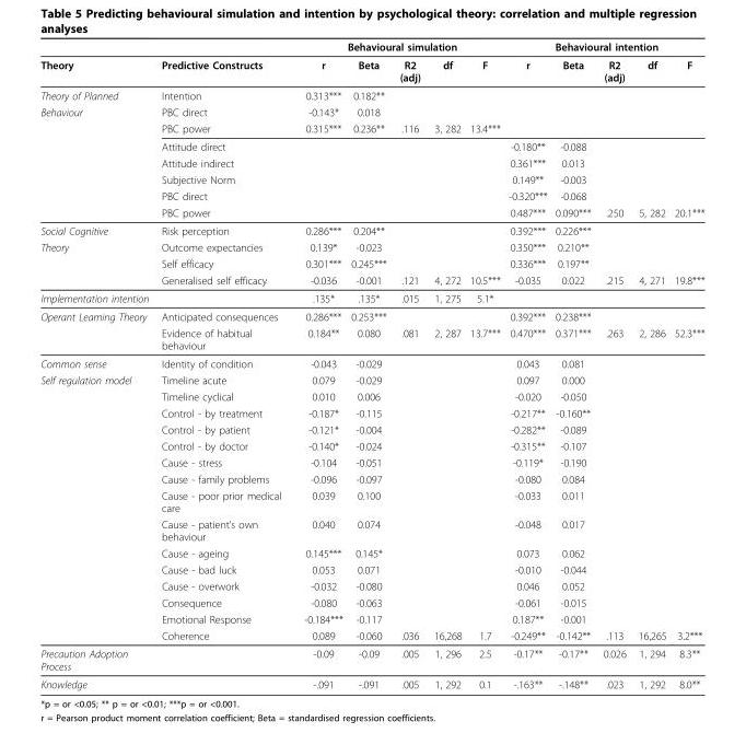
<table><thead><tr><td rowspan="2">Theory</td><td rowspan="2">Predictive Constructs</td><td colspan="5">Behavioural simulation</td><td colspan="5">Behavioural intention</td></tr><tr><td>r</td><td>Beta</td><td>R2 (adj)</td><td>df</td><td>F</td><td>r</td><td>Beta</td><td>R2 (adj)</td><td>df</td><td>F</td></tr></thead><tbody><tr><td>Theory of Planned</td><td>Intention</td><td>0.313***</td><td>0.182**</td><td></td><td></td><td></td><td></td><td></td><td></td><td></td><td></td></tr><tr><td rowspan="7">Behaviour</td><td>PBC direct</td><td>-0.143*</td><td>0.018</td><td></td><td></td><td></td><td></td><td></td><td></td><td></td><td></td></tr><tr><td>PBC power</td><td>0.315***</td><td>0.236**</td><td>.116</td><td>3, 282</td><td>13.4***</td><td></td><td></td><td></td><td></td><td></td></tr><tr><td>Attitude direct</td><td></td><td></td><td></td><td></td><td></td><td>-0.180**</td><td>-0.088</td><td></td><td></td><td></td></tr><tr><td>Attitude indirect</td><td></td><td></td><td></td><td></td><td></td><td>0.361***</td><td>0.013</td><td></td><td></td><td></td></tr><tr><td>Subjective Norm</td><td></td><td></td><td></td><td></td><td></td><td>0.149**</td><td>-0.003</td><td></td><td></td><td></td></tr><tr><td>PBC direct</td><td></td><td></td><td></td><td></td><td></td><td>-0.320***</td><td>-0.068</td><td></td><td></td><td></td></tr><tr><td>PBC power</td><td></td><td></td><td></td><td></td><td></td><td>0.487***</td><td>0.090***</td><td>.250</td><td>5, 282</td><td>20.1***</td></tr><tr><td>Social Cognitive</td><td>Risk perception</td><td>0.286***</td><td>0.204**</td><td></td><td></td><td></td><td>0.392***</td><td>0.226***</td><td></td><td></td><td></td></tr><tr><td rowspan="3">Theory</td><td>Outcome expectancies</td><td>0.139*</td><td>-0.023</td><td></td><td></td><td></td><td>0.350***</td><td>0.210**</td><td></td><td></td><td></td></tr><tr><td>Self efficacy</td><td>0.301***</td><td>0.245***</td><td></td><td></td><td></td><td>0.336***</td><td>0.197**</td><td></td><td></td><td></td></tr><tr><td>Generalised self efficacy</td><td>-0.036</td><td>-0.001</td><td>.121</td><td>4, 272</td><td>10.5***</td><td>-0.035</td><td>0.022</td><td>.215</td><td>4, 271</td><td>19.8***</td></tr><tr><td>Implementation intention</td><td></td><td>.135*</td><td>.135*</td><td>.015</td><td>1, 275</td><td>5.1*</td><td></td><td></td><td></td><td></td><td></td></tr><tr><td rowspan="2">Operant Learning Theory</td><td>Anticipated consequences</td><td>0.286***</td><td>0.253***</td><td></td><td></td><td></td><td>0.392***</td><td>0.238***</td><td></td><td></td><td></td></tr><tr><td>Evidence of habitual behaviour</td><td>0.184**</td><td>0.080</td><td>.081</td><td>2, 287</td><td>13.7***</td><td>0.470***</td><td>0.371***</td><td>.263</td><td>2, 286</td><td>52.3***</td></tr><tr><td>Common sense</td><td>Identity of condition</td><td>-0.043</td><td>-0.029</td><td></td><td></td><td></td><td>0.043</td><td>0.081</td><td></td><td></td><td></td></tr><tr><td rowspan="15">Self regulation model</td><td>Timeline acute</td><td>0.079</td><td>-0.029</td><td></td><td></td><td></td><td>0.097</td><td>0.000</td><td></td><td></td><td></td></tr><tr><td>Timeline cyclical</td><td>0.010</td><td>0.006</td><td></td><td></td><td></td><td>-0.020</td><td>-0.050</td><td></td><td></td><td></td></tr><tr><td>Control - by treatment</td><td>-0.187*</td><td>-0.115</td><td></td><td></td><td></td><td>-0.217**</td><td>-0.160**</td><td></td><td></td><td></td></tr><tr><td>Control - by patient</td><td>-0.121*</td><td>-0.004</td><td></td><td></td><td></td><td>-0.282**</td><td>-0.089</td><td></td><td></td><td></td></tr><tr><td>Control - by doctor</td><td>-0.140*</td><td>-0.024</td><td></td><td></td><td></td><td>-0.315**</td><td>-0.107</td><td></td><td></td><td></td></tr><tr><td>Cause - stress</td><td>-0.104</td><td>-0.051</td><td></td><td></td><td></td><td>-0.119*</td><td>-0.190</td><td></td><td></td><td></td></tr><tr><td>Cause - family problems</td><td>-0.096</td><td>-0.097</td><td></td><td></td><td></td><td>-0.080</td><td>0.084</td><td></td><td></td><td></td></tr><tr><td>Cause - poor prior medical care</td><td>0.039</td><td>0.100</td><td></td><td></td><td></td><td>-0.033</td><td>0.011</td><td></td><td></td><td></td></tr><tr><td>Cause - patient’s own behaviour</td><td>0.040</td><td>0.074</td><td></td><td></td><td></td><td>-0.048</td><td>0.017</td><td></td><td></td><td></td></tr><tr><td>Cause - ageing</td><td>0.145***</td><td>0.145*</td><td></td><td></td><td></td><td>0.073</td><td>0.062</td><td></td><td></td><td></td></tr><tr><td>Cause - bad luck</td><td>0.053</td><td>0.071</td><td></td><td></td><td></td><td>-0.010</td><td>-0.044</td><td></td><td></td><td></td></tr><tr><td>Cause - overwork</td><td>-0.032</td><td>-0.080</td><td></td><td></td><td></td><td>0.046</td><td>0.052</td><td></td><td></td><td></td></tr><tr><td>Consequence</td><td>-0.080</td><td>-0.063</td><td></td><td></td><td></td><td>-0.061</td><td>-0.015</td><td></td><td></td><td></td></tr><tr><td>Emotional Response</td><td>-0.184***</td><td>-0.117</td><td></td><td></td><td></td><td>0.187**</td><td>-0.001</td><td></td><td></td><td></td></tr><tr><td>Coherence</td><td>0.089</td><td>-0.060</td><td>.036</td><td>16,268</td><td>1.7</td><td>-0.249**</td><td>-0.142**</td><td>.113</td><td>16,265</td><td>3.2***</td></tr><tr><td>Precaution Adoption Process</td><td></td><td>-0.09</td><td>-0.09</td><td>.005</td><td>1, 296</td><td>2.5</td><td>-0.17**</td><td>-0.17**</td><td>0.026</td><td>1, 294</td><td>8.3**</td></tr><tr><td>Knowledge</td><td></td><td>-.091</td><td>-.091</td><td>.005</td><td>1, 292</td><td>0.1</td><td>-.163**</td><td>-.148**</td><td>.023</td><td>1, 292</td><td>8.0**</td></tr></tbody></table>